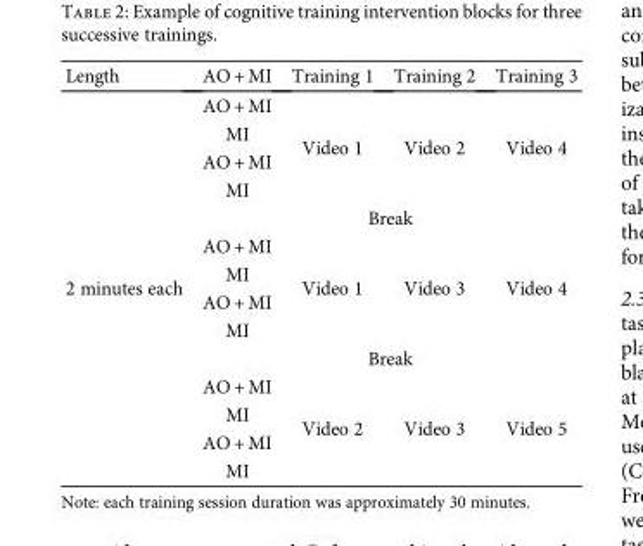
<table><thead><tr><td>Length</td><td>AO + MI</td><td>Training 1</td><td>Training 2</td><td>Training 3</td></tr></thead><tbody><tr><td rowspan="14">2 minutes each</td><td>AO + MI</td><td rowspan="4">Video 1</td><td rowspan="4">Video 2</td><td rowspan="4">Video 4</td></tr><tr><td>MI</td></tr><tr><td>AO + MI</td></tr><tr><td>MI</td></tr><tr><td colspan="4">Break</td></tr><tr><td>AO + MI</td><td rowspan="4">Video 1</td><td rowspan="4">Video 3</td><td rowspan="4">Video 4</td></tr><tr><td>MI</td></tr><tr><td>AO + MI</td></tr><tr><td>MI</td></tr><tr><td colspan="4">Break</td></tr><tr><td>AO + MI</td><td rowspan="4">Video 2</td><td rowspan="4">Video 3</td><td rowspan="4">Video 5</td></tr><tr><td>MI</td></tr><tr><td>AO + MI</td></tr><tr><td>MI</td></tr></tbody></table>